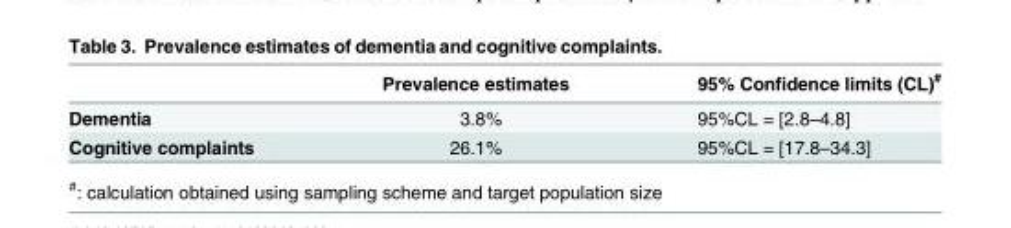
<table><thead><tr><td></td><td>Prevalence estimates</td><td>95% Confidence limits (CL)<sup>#</sup></td></tr></thead><tbody><tr><td>Dementia</td><td>3.8%</td><td>95%CL = [2.8–4.8]</td></tr><tr><td>Cognitive complaints</td><td>26.1%</td><td>95%CL = [17.8–34.3]</td></tr></tbody></table>